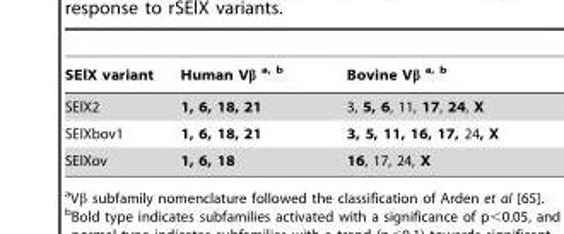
<table><thead><tr><td>SElX variant</td><td>Human Vβ a, b</td><td>Bovine Vβ a, b</td></tr></thead><tbody><tr><td>SElX2</td><td>1, 6, 18, 21</td><td>3, 5, 6, 11, 17, 24, X</td></tr><tr><td>SElXbov1</td><td>1, 6, 18, 21</td><td>3, 5, 11, 16, 17, 24, X</td></tr><tr><td>SElXov</td><td>1, 6, 18</td><td>16, 17, 24, X</td></tr></tbody></table>